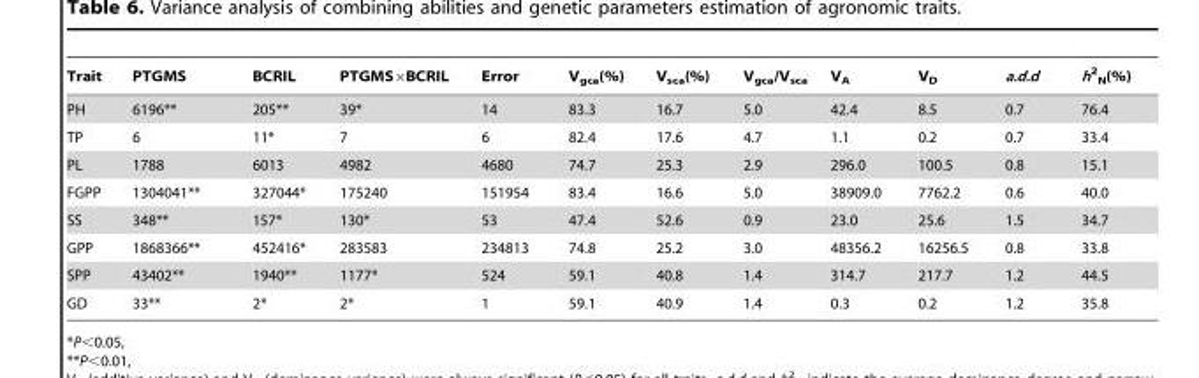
<table><thead><tr><td>Trait</td><td>PTGMS</td><td>BCRIL</td><td>PTGMS×BCRIL</td><td>Error</td><td>V<sub>gca</sub>(%)</td><td>V<sub>sca</sub>(%)</td><td>V<sub>gca</sub>/V<sub>sca</sub></td><td>V<sub>A</sub></td><td>V<sub>D</sub></td><td>a.d.d</td><td>h<sup>2</sup> <sub>N</sub>(%)</td></tr></thead><tbody><tr><td>PH</td><td>6196**</td><td>205**</td><td>39*</td><td>14</td><td>83.3</td><td>16.7</td><td>5.0</td><td>42.4</td><td>8.5</td><td>0.7</td><td>76.4</td></tr><tr><td>TP</td><td>6</td><td>11*</td><td>7</td><td>6</td><td>82.4</td><td>17.6</td><td>4.7</td><td>1.1</td><td>0.2</td><td>0.7</td><td>33.4</td></tr><tr><td>PL</td><td>1788</td><td>6013</td><td>4982</td><td>4680</td><td>74.7</td><td>25.3</td><td>2.9</td><td>296.0</td><td>100.5</td><td>0.8</td><td>15.1</td></tr><tr><td>FGPP</td><td>1304041**</td><td>327044*</td><td>175240</td><td>151954</td><td>83.4</td><td>16.6</td><td>5.0</td><td>38909.0</td><td>7762.2</td><td>0.6</td><td>40.0</td></tr><tr><td>SS</td><td>348**</td><td>157*</td><td>130*</td><td>53</td><td>47.4</td><td>52.6</td><td>0.9</td><td>23.0</td><td>25.6</td><td>1.5</td><td>34.7</td></tr><tr><td>GPP</td><td>1868366**</td><td>452416*</td><td>283583</td><td>234813</td><td>74.8</td><td>25.2</td><td>3.0</td><td>48356.2</td><td>16256.5</td><td>0.8</td><td>33.8</td></tr><tr><td>SPP</td><td>43402**</td><td>1940**</td><td>1177*</td><td>524</td><td>59.1</td><td>40.8</td><td>1.4</td><td>314.7</td><td>217.7</td><td>1.2</td><td>44.5</td></tr><tr><td>GD</td><td>33**</td><td>2*</td><td>2*</td><td>1</td><td>59.1</td><td>40.9</td><td>1.4</td><td>0.3</td><td>0.2</td><td>1.2</td><td>35.8</td></tr></tbody></table>